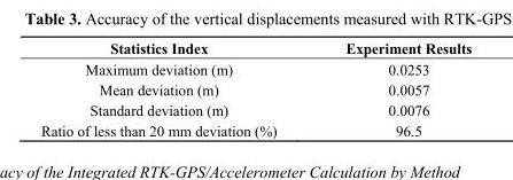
<table><thead><tr><td>Statistics Index</td><td>Experiment Results</td></tr></thead><tbody><tr><td>Maximum deviation (m)</td><td>0.0253</td></tr><tr><td>Mean deviation (m)</td><td>0.0057</td></tr><tr><td>Standard deviation (m)</td><td>0.0076</td></tr><tr><td>Ratio of less than 20 mm deviation (%)</td><td>96.5</td></tr></tbody></table>